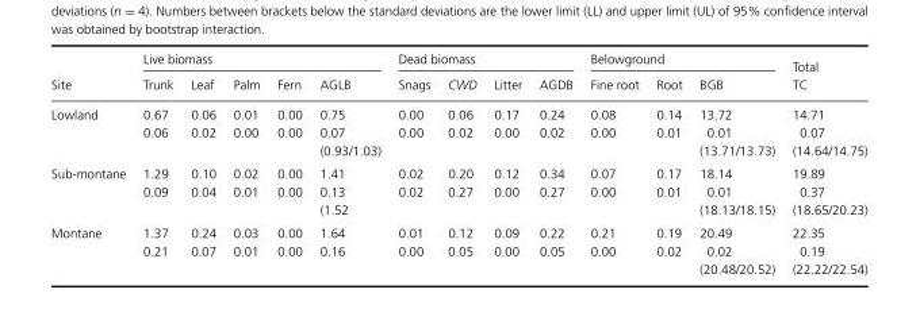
<table><thead><tr><td rowspan="2">Site</td><td colspan="5">Live biomass</td><td colspan="4">Dead biomass</td><td colspan="3">Belowground</td><td rowspan="2">Total TC</td></tr><tr><td>Trunk</td><td>Leaf</td><td>Palm</td><td>Fern</td><td>AGLB</td><td>Snags</td><td>CWD</td><td>Litter</td><td>AGDB</td><td>Fine root</td><td>Root</td><td>BGB</td></tr></thead><tbody><tr><td rowspan="3">Lowland</td><td>0.67</td><td>0.06</td><td>0.01</td><td>0.00</td><td>0.75</td><td>0.00</td><td>0.06</td><td>0.17</td><td>0.24</td><td>0.08</td><td>0.14</td><td>13.72</td><td>14.71</td></tr><tr><td>0.06</td><td>0.02</td><td>0.00</td><td>0.00</td><td>0.07</td><td>0.00</td><td>0.02</td><td>0.00</td><td>0.02</td><td>0.00</td><td>0.01</td><td>0.01</td><td>0.07</td></tr><tr><td></td><td></td><td></td><td></td><td>(0.93/1.03)</td><td></td><td></td><td></td><td></td><td></td><td></td><td>(13.71/13.73)</td><td>(14.64/14.75)</td></tr><tr><td rowspan="3">Sub-montane</td><td>1.29</td><td>0.10</td><td>0.02</td><td>0.00</td><td>1.41</td><td>0.02</td><td>0.20</td><td>0.12</td><td>0.34</td><td>0.07</td><td>0.17</td><td>18.14</td><td>19.89</td></tr><tr><td>0.09</td><td>0.04</td><td>0.01</td><td>0.00</td><td>0.13</td><td>0.02</td><td>0.27</td><td>0.00</td><td>0.27</td><td>0.00</td><td>0.01</td><td>0.01</td><td>0.37</td></tr><tr><td></td><td></td><td></td><td></td><td>(1.52</td><td></td><td></td><td></td><td></td><td></td><td></td><td>(18.13/18.15)</td><td>(18.65/20.23)</td></tr><tr><td rowspan="3">Montane</td><td>1.37</td><td>0.24</td><td>0.03</td><td>0.00</td><td>1.64</td><td>0.01</td><td>0.12</td><td>0.09</td><td>0.22</td><td>0.21</td><td>0.19</td><td>20.49</td><td>22.35</td></tr><tr><td>0.21</td><td>0.07</td><td>0.01</td><td>0.00</td><td>0.16</td><td>0.00</td><td>0.05</td><td>0.00</td><td>0.05</td><td>0.00</td><td>0.02</td><td>0.02</td><td>0.19</td></tr><tr><td></td><td></td><td></td><td></td><td></td><td></td><td></td><td></td><td></td><td></td><td></td><td>(20.48/20.52)</td><td>(22.22/22.54)</td></tr></tbody></table>